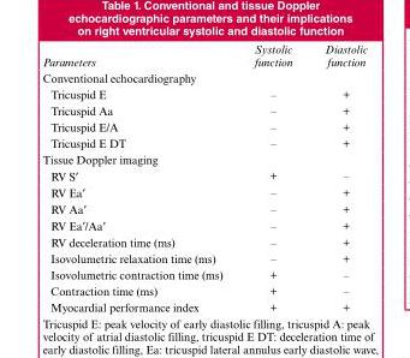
<table><thead><tr><td>Parameters</td><td>Systolic function</td><td>Diastolic function</td></tr></thead><tbody><tr><td colspan="3">Conventional echocardiography</td></tr><tr><td>Tricuspid E</td><td>–</td><td>+</td></tr><tr><td>Tricuspid Aa</td><td>–</td><td>+</td></tr><tr><td>Tricuspid E/A</td><td>–</td><td>+</td></tr><tr><td>Tricuspid E DT</td><td>–</td><td>+</td></tr><tr><td colspan="3">Tissue Doppler imaging</td></tr><tr><td>RV S′</td><td>+</td><td>–</td></tr><tr><td>RV Ea′</td><td>–</td><td>+</td></tr><tr><td>RV Aa′</td><td>–</td><td>+</td></tr><tr><td>RV Ea′/Aa′</td><td>–</td><td>+</td></tr><tr><td>RV deceleration time (ms)</td><td>–</td><td>+</td></tr><tr><td>Isovolumetric relaxation time (ms)</td><td>–</td><td>+</td></tr><tr><td>Isovolumetric contraction time (ms)</td><td>+</td><td>–</td></tr><tr><td>Contraction time (ms)</td><td>+</td><td>–</td></tr><tr><td>Myocardial performance index</td><td>+</td><td>+</td></tr></tbody></table>